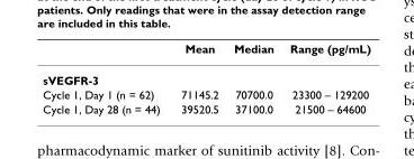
<table><thead><tr><td></td><td>Mean</td><td>Median</td><td>Range (pg/mL)</td></tr></thead><tbody><tr><td colspan="4">sVEGFR-3</td></tr><tr><td>Cycle 1, Day 1 (n = 62)</td><td>71145.2</td><td>70700.0</td><td>23300 – 129200</td></tr><tr><td>Cycle 1, Day 28 (n = 44)</td><td>39520.5</td><td>37100.0</td><td>21500 – 64600</td></tr></tbody></table>